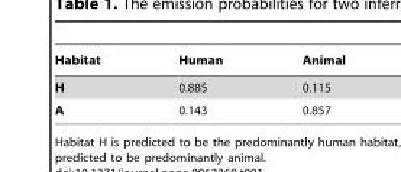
<table><thead><tr><td>Habitat</td><td>Human</td><td>Animal</td></tr></thead><tbody><tr><td>H</td><td>0.885</td><td>0.115</td></tr><tr><td>A</td><td>0.143</td><td>0.857</td></tr></tbody></table>